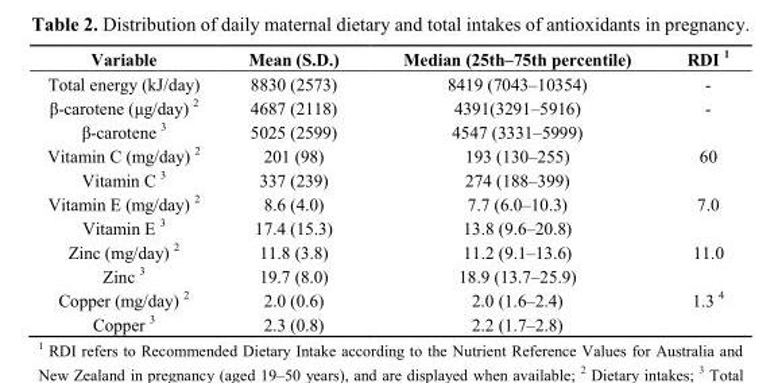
<table><thead><tr><td>Variable</td><td>Mean (S.D.)</td><td>Median (25th–75th percentile)</td><td>RDI <sup>1</sup></td></tr></thead><tbody><tr><td>Total energy (kJ/day)</td><td>8830 (2573)</td><td>8419 (7043–10354)</td><td>-</td></tr><tr><td>β-carotene (μg/day) <sup>2</sup></td><td>4687 (2118)</td><td>4391(3291–5916)</td><td>-</td></tr><tr><td>β-carotene <sup>3</sup></td><td>5025 (2599)</td><td>4547 (3331–5999)</td><td></td></tr><tr><td>Vitamin C (mg/day) <sup>2</sup></td><td>201 (98)</td><td>193 (130–255)</td><td>60</td></tr><tr><td>Vitamin C <sup>3</sup></td><td>337 (239)</td><td>274 (188–399)</td><td></td></tr><tr><td>Vitamin E (mg/day) <sup>2</sup></td><td>8.6 (4.0)</td><td>7.7 (6.0–10.3)</td><td>7.0</td></tr><tr><td>Vitamin E <sup>3</sup></td><td>17.4 (15.3)</td><td>13.8 (9.6–20.8)</td><td></td></tr><tr><td>Zinc (mg/day) <sup>2</sup></td><td>11.8 (3.8)</td><td>11.2 (9.1–13.6)</td><td>11.0</td></tr><tr><td>Zinc <sup>3</sup></td><td>19.7 (8.0)</td><td>18.9 (13.7–25.9)</td><td></td></tr><tr><td>Copper (mg/day) <sup>2</sup></td><td>2.0 (0.6)</td><td>2.0 (1.6–2.4)</td><td>1.3 <sup>4</sup></td></tr><tr><td>Copper <sup>3</sup></td><td>2.3 (0.8)</td><td>2.2 (1.7–2.8)</td><td></td></tr></tbody></table>